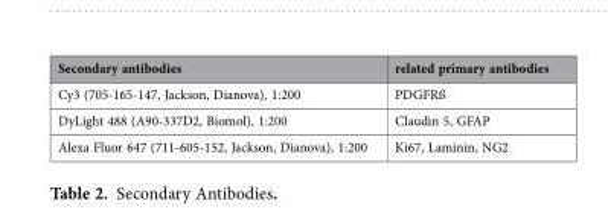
<table><thead><tr><td>Secondary antibodies</td><td>related primary antibodies</td></tr></thead><tbody><tr><td>Cy3 (705-165-147, Jackson, Dianova), 1:200</td><td>PDGFRß</td></tr><tr><td>DyLight 488 (A90-337D2, Biomol), 1:200</td><td>Claudin 5, GFAP</td></tr><tr><td>Alexa Fluor 647 (711-605-152, Jackson, Dianova), 1:200</td><td>Ki67, Laminin, NG2</td></tr></tbody></table>